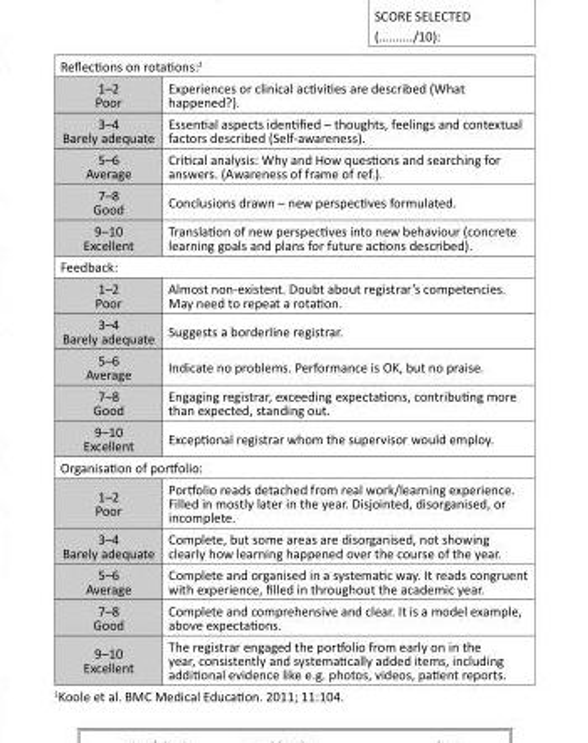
<table><tbody><tr><td colspan="2">Reflections on rotations:<sup>1</sup></td></tr><tr><td>1–2 Poor</td><td>Experiences or clinical activities are described (What happened?).</td></tr><tr><td>3–4 Barely adequate</td><td>Essential aspects identified – thoughts, feelings and contextual factors described (Self-awareness).</td></tr><tr><td>5–6 Average</td><td>Critical analysis: Why and How questions and searching for answers. (Awareness of frame of ref.).</td></tr><tr><td>7–8 Good</td><td>Conclusions drawn – new perspectives formulated.</td></tr><tr><td>9–10 Excellent</td><td>Translation of new perspectives into new behaviour (concrete learning goals and plans for future actions described).</td></tr><tr><td colspan="2">Feedback:</td></tr><tr><td>1–2 Poor</td><td>Almost non-existent. Doubt about registrar’s competencies. May need to repeat a rotation.</td></tr><tr><td>3–4 Barely adequate</td><td>Suggests a borderline registrar.</td></tr><tr><td>5–6 Average</td><td>Indicate no problems. Performance is OK, but no praise.</td></tr><tr><td>7–8 Good</td><td>Engaging registrar, exceeding expectations, contributing more than expected, standing out.</td></tr><tr><td>9–10 Excellent</td><td>Exceptional registrar whom the supervisor would employ.</td></tr><tr><td colspan="2">Organisation of portfolio:</td></tr><tr><td>1–2 Poor</td><td>Portfolio reads detached from real work/learning experience. Filled in mostly later in the year. Disjointed, disorganised, or incomplete.</td></tr><tr><td>3–4 Barely adequate</td><td>Complete, but some areas are disorganised, not showing clearly how learning happened over the course of the year.</td></tr><tr><td>5–6 Average</td><td>Complete and organised in a systematic way. It reads congruent with experience, filled in throughout the academic year.</td></tr><tr><td>7–8 Good</td><td>Complete and comprehensive and clear. It is a model example, above expectations.</td></tr><tr><td>9–10 Excellent</td><td>The registrar engaged the portfolio from early on in the year, consistently and systematically added items, including additional evidence like e.g. photos, videos, patient reports.</td></tr></tbody></table>